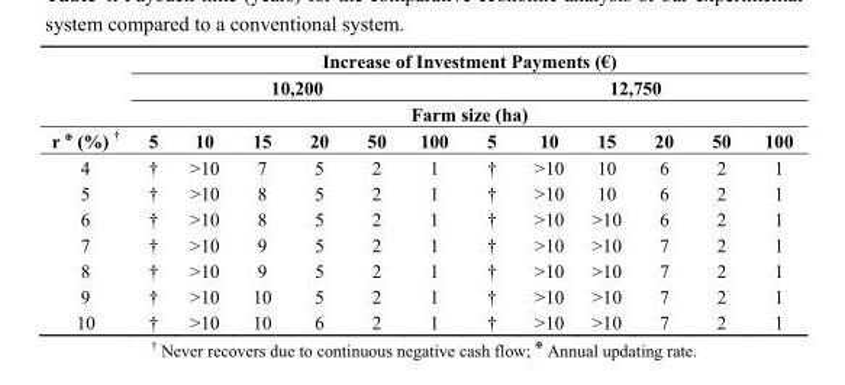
<table><thead><tr><td rowspan="4">r <sup>✠</sup> (%) <sup>†</sup></td><td colspan="12">Increase of Investment Payments (€)</td></tr><tr><td colspan="6">10,200</td><td colspan="6">12,750</td></tr><tr><td colspan="12">Farm size (ha)</td></tr><tr><td>5</td><td>10</td><td>15</td><td>20</td><td>50</td><td>100</td><td>5</td><td>10</td><td>15</td><td>20</td><td>50</td><td>100</td></tr></thead><tbody><tr><td>4</td><td>†</td><td>&gt;10</td><td>7</td><td>5</td><td>2</td><td>1</td><td>†</td><td>&gt;10</td><td>10</td><td>6</td><td>2</td><td>1</td></tr><tr><td>5</td><td>†</td><td>&gt;10</td><td>8</td><td>5</td><td>2</td><td>1</td><td>†</td><td>&gt;10</td><td>10</td><td>6</td><td>2</td><td>1</td></tr><tr><td>6</td><td>†</td><td>&gt;10</td><td>8</td><td>5</td><td>2</td><td>1</td><td>†</td><td>&gt;10</td><td>&gt;10</td><td>6</td><td>2</td><td>1</td></tr><tr><td>7</td><td>†</td><td>&gt;10</td><td>9</td><td>5</td><td>2</td><td>1</td><td>†</td><td>&gt;10</td><td>&gt;10</td><td>7</td><td>2</td><td>1</td></tr><tr><td>8</td><td>†</td><td>&gt;10</td><td>9</td><td>5</td><td>2</td><td>1</td><td>†</td><td>&gt;10</td><td>&gt;10</td><td>7</td><td>2</td><td>1</td></tr><tr><td>9</td><td>†</td><td>&gt;10</td><td>10</td><td>5</td><td>2</td><td>1</td><td>†</td><td>&gt;10</td><td>&gt;10</td><td>7</td><td>2</td><td>1</td></tr><tr><td>10</td><td>†</td><td>&gt;10</td><td>10</td><td>6</td><td>2</td><td>1</td><td>†</td><td>&gt;10</td><td>&gt;10</td><td>7</td><td>2</td><td>1</td></tr></tbody></table>